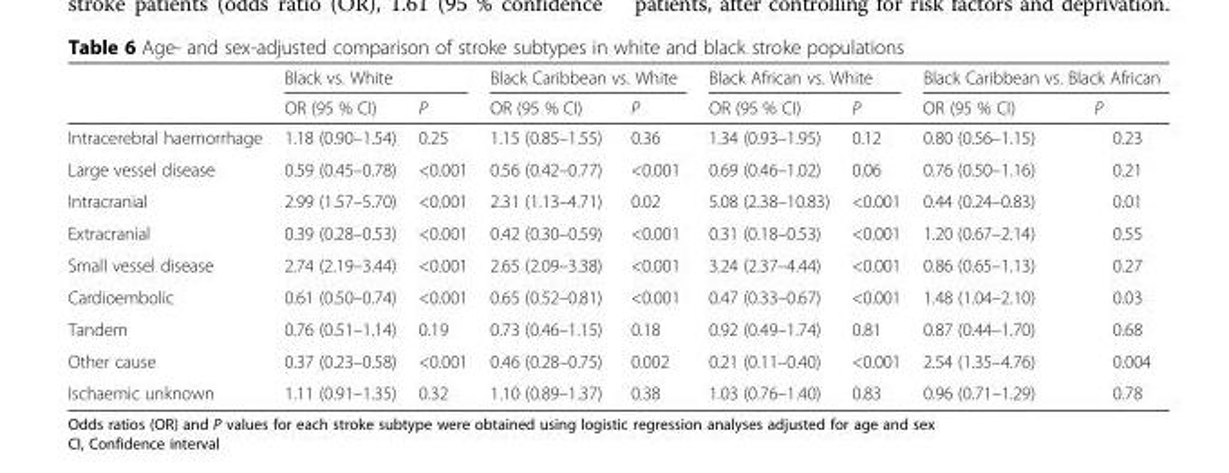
<table><thead><tr><td rowspan="2"></td><td colspan="2">Black vs. White</td><td colspan="2">Black Caribbean vs. White</td><td colspan="2">Black African vs. White</td><td colspan="2">Black Caribbean vs. Black African</td></tr><tr><td>OR (95 % CI)</td><td>P</td><td>OR (95 % CI)</td><td>P</td><td>OR (95 % CI)</td><td>P</td><td>OR (95 % CI)</td><td>P</td></tr></thead><tbody><tr><td>Intracerebral haemorrhage</td><td>1.18 (0.90–1.54)</td><td>0.25</td><td>1.15 (0.85–1.55)</td><td>0.36</td><td>1.34 (0.93–1.95)</td><td>0.12</td><td>0.80 (0.56–1.15)</td><td>0.23</td></tr><tr><td>Large vessel disease</td><td>0.59 (0.45–0.78)</td><td>&lt;0.001</td><td>0.56 (0.42–0.77)</td><td>&lt;0.001</td><td>0.69 (0.46–1.02)</td><td>0.06</td><td>0.76 (0.50–1.16)</td><td>0.21</td></tr><tr><td>Intracranial</td><td>2.99 (1.57–5.70)</td><td>&lt;0.001</td><td>2.31 (1.13–4.71)</td><td>0.02</td><td>5.08 (2.38–10.83)</td><td>&lt;0.001</td><td>0.44 (0.24–0.83)</td><td>0.01</td></tr><tr><td>Extracranial</td><td>0.39 (0.28–0.53)</td><td>&lt;0.001</td><td>0.42 (0.30–0.59)</td><td>&lt;0.001</td><td>0.31 (0.18–0.53)</td><td>&lt;0.001</td><td>1.20 (0.67–2.14)</td><td>0.55</td></tr><tr><td>Small vessel disease</td><td>2.74 (2.19–3.44)</td><td>&lt;0.001</td><td>2.65 (2.09–3.38)</td><td>&lt;0.001</td><td>3.24 (2.37–4.44)</td><td>&lt;0.001</td><td>0.86 (0.65–1.13)</td><td>0.27</td></tr><tr><td>Cardioembolic</td><td>0.61 (0.50–0.74)</td><td>&lt;0.001</td><td>0.65 (0.52–0.81)</td><td>&lt;0.001</td><td>0.47 (0.33–0.67)</td><td>&lt;0.001</td><td>1.48 (1.04–2.10)</td><td>0.03</td></tr><tr><td>Tandem</td><td>0.76 (0.51–1.14)</td><td>0.19</td><td>0.73 (0.46–1.15)</td><td>0.18</td><td>0.92 (0.49–1.74)</td><td>0.81</td><td>0.87 (0.44–1.70)</td><td>0.68</td></tr><tr><td>Other cause</td><td>0.37 (0.23–0.58)</td><td>&lt;0.001</td><td>0.46 (0.28–0.75)</td><td>0.002</td><td>0.21 (0.11–0.40)</td><td>&lt;0.001</td><td>2.54 (1.35–4.76)</td><td>0.004</td></tr><tr><td>Ischaemic unknown</td><td>1.11 (0.91–1.35)</td><td>0.32</td><td>1.10 (0.89–1.37)</td><td>0.38</td><td>1.03 (0.76–1.40)</td><td>0.83</td><td>0.96 (0.71–1.29)</td><td>0.78</td></tr></tbody></table>